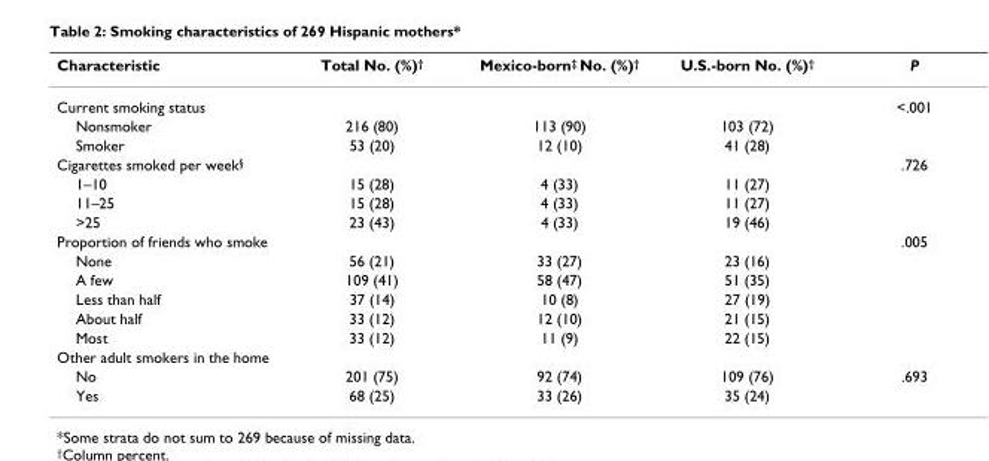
<table><thead><tr><td>Characteristic</td><td>Total No. (%)†</td><td>Mexico-born‡ No. (%)†</td><td>U.S.-born No. (%)†</td><td>P</td></tr></thead><tbody><tr><td>Current smoking status</td><td></td><td></td><td></td><td>&lt;.001</td></tr><tr><td>Nonsmoker</td><td>216 (80)</td><td>113 (90)</td><td>103 (72)</td><td></td></tr><tr><td>Smoker</td><td>53 (20)</td><td>12 (10)</td><td>41 (28)</td><td></td></tr><tr><td>Cigarettes smoked per week§</td><td></td><td></td><td></td><td>.726</td></tr><tr><td>1–10</td><td>15 (28)</td><td>4 (33)</td><td>11 (27)</td><td></td></tr><tr><td>11–25</td><td>15 (28)</td><td>4 (33)</td><td>11 (27)</td><td></td></tr><tr><td>&gt;25</td><td>23 (43)</td><td>4 (33)</td><td>19 (46)</td><td></td></tr><tr><td>Proportion of friends who smoke</td><td></td><td></td><td></td><td>.005</td></tr><tr><td>None</td><td>56 (21)</td><td>33 (27)</td><td>23 (16)</td><td></td></tr><tr><td>A few</td><td>109 (41)</td><td>58 (47)</td><td>51 (35)</td><td></td></tr><tr><td>Less than half</td><td>37 (14)</td><td>10 (8)</td><td>27 (19)</td><td></td></tr><tr><td>About half</td><td>33 (12)</td><td>12 (10)</td><td>21 (15)</td><td></td></tr><tr><td>Most</td><td>33 (12)</td><td>11 (9)</td><td>22 (15)</td><td></td></tr><tr><td colspan="5">Other adult smokers in the home</td></tr><tr><td>No</td><td>201 (75)</td><td>92 (74)</td><td>109 (76)</td><td>.693</td></tr><tr><td>Yes</td><td>68 (25)</td><td>33 (26)</td><td>35 (24)</td><td></td></tr></tbody></table>